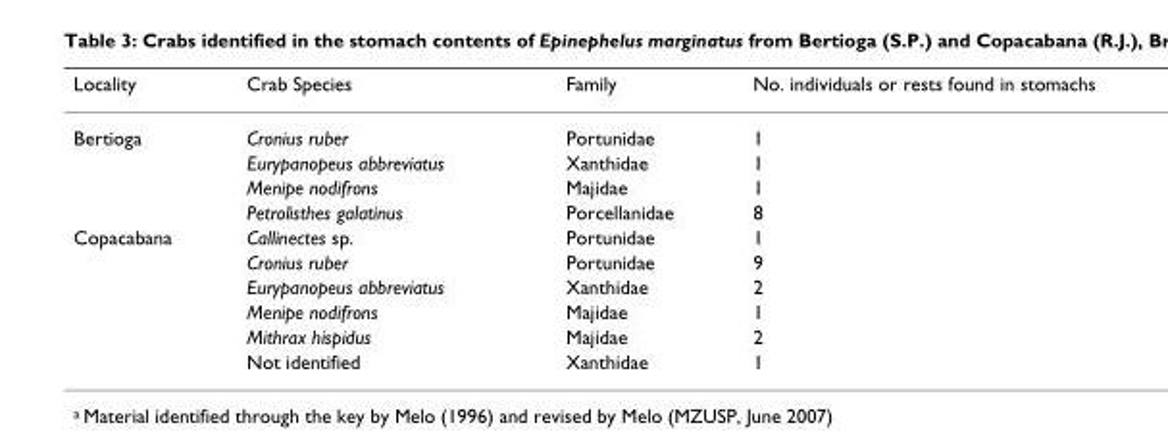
<table><thead><tr><td>Locality</td><td>Crab Species</td><td>Family</td><td>No. individuals or rests found in stomachs</td></tr></thead><tbody><tr><td rowspan="4">Bertioga</td><td>Cronius ruber</td><td>Portunidae</td><td>1</td></tr><tr><td>Eurypanopeus abbreviatus</td><td>Xanthidae</td><td>1</td></tr><tr><td>Menipe nodifrons</td><td>Majidae</td><td>1</td></tr><tr><td>Petrolisthes galatinus</td><td>Porcellanidae</td><td>8</td></tr><tr><td rowspan="6">Copacabana</td><td>Callinectes sp.</td><td>Portunidae</td><td>1</td></tr><tr><td>Cronius ruber</td><td>Portunidae</td><td>9</td></tr><tr><td>Eurypanopeus abbreviatus</td><td>Xanthidae</td><td>2</td></tr><tr><td>Menipe nodifrons</td><td>Majidae</td><td>1</td></tr><tr><td>Mithrax hispidus</td><td>Majidae</td><td>2</td></tr><tr><td>Not identified</td><td>Xanthidae</td><td>1</td></tr></tbody></table>